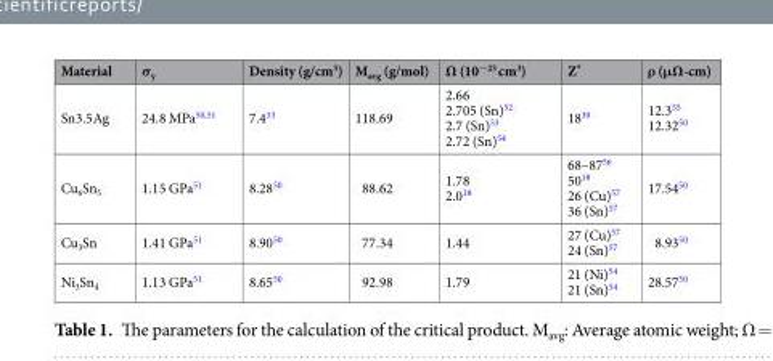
<table><thead><tr><td>Material</td><td>σ<sub>y</sub></td><td>Density (g/cm<sup>3</sup>)</td><td>M<sub>avg</sub> (g/mol)</td><td>Ω (10<sup>−23</sup> cm<sup>3</sup>)</td><td>Z*</td><td>ρ (μΩ-cm)</td></tr></thead><tbody><tr><td>Sn3.5Ag</td><td>24.8 MPa<sup>50,51</sup></td><td>7.4<sup>33</sup></td><td>118.69</td><td>2.66 2.705 (Sn)<sup>52</sup> 2.7 (Sn)<sup>53</sup> 2.72 (Sn)<sup>54</sup></td><td>18<sup>30</sup></td><td>12.3<sup>55</sup> 12.32<sup>50</sup></td></tr><tr><td>Cu<sub>6</sub>Sn<sub>5</sub></td><td>1.15 GPa<sup>51</sup></td><td>8.28<sup>50</sup></td><td>88.62</td><td>1.78 2.0<sup>18</sup></td><td>68–87<sup>56</sup> 50<sup>18</sup> 26 (Cu)<sup>57</sup> 36 (Sn)<sup>57</sup></td><td>17.54<sup>50</sup></td></tr><tr><td>Cu<sub>3</sub>Sn</td><td>1.41 GPa<sup>51</sup></td><td>8.90<sup>50</sup></td><td>77.34</td><td>1.44</td><td>27 (Cu)<sup>57</sup> 24 (Sn)<sup>57</sup></td><td>8.93<sup>50</sup></td></tr><tr><td>Ni<sub>3</sub>Sn<sub>4</sub></td><td>1.13 GPa<sup>51</sup></td><td>8.65<sup>50</sup></td><td>92.98</td><td>1.79</td><td>21 (Ni)<sup>54</sup> 21 (Sn)<sup>54</sup></td><td>28.57<sup>50</sup></td></tr></tbody></table>